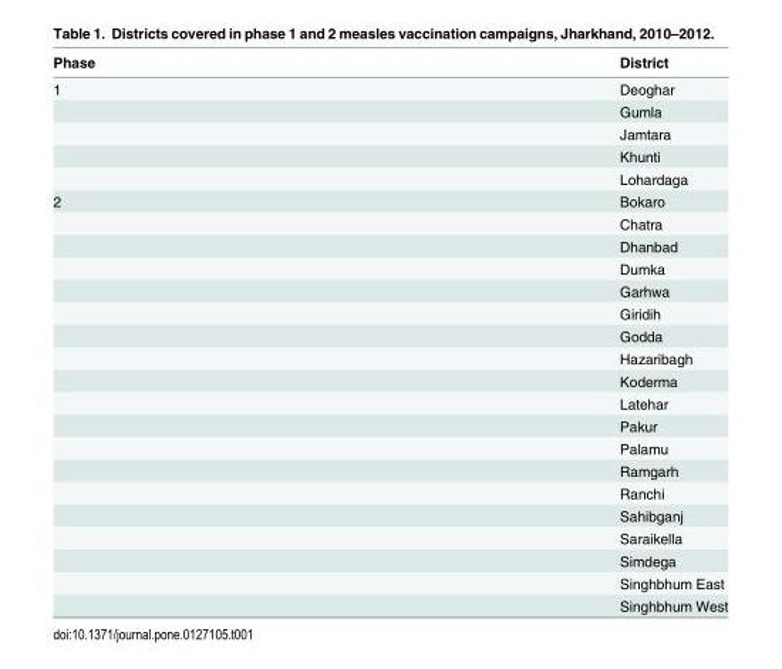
<table><thead><tr><td>Phase</td><td>District</td></tr></thead><tbody><tr><td rowspan="5">1</td><td>Deoghar</td></tr><tr><td>Gumla</td></tr><tr><td>Jamtara</td></tr><tr><td>Khunti</td></tr><tr><td>Lohardaga</td></tr><tr><td rowspan="19">2</td><td>Bokaro</td></tr><tr><td>Chatra</td></tr><tr><td>Dhanbad</td></tr><tr><td>Dumka</td></tr><tr><td>Garhwa</td></tr><tr><td>Giridih</td></tr><tr><td>Godda</td></tr><tr><td>Hazaribagh</td></tr><tr><td>Koderma</td></tr><tr><td>Latehar</td></tr><tr><td>Pakur</td></tr><tr><td>Palamu</td></tr><tr><td>Ramgarh</td></tr><tr><td>Ranchi</td></tr><tr><td>Sahibganj</td></tr><tr><td>Saraikella</td></tr><tr><td>Simdega</td></tr><tr><td>Singhbhum East</td></tr><tr><td>Singhbhum West</td></tr></tbody></table>